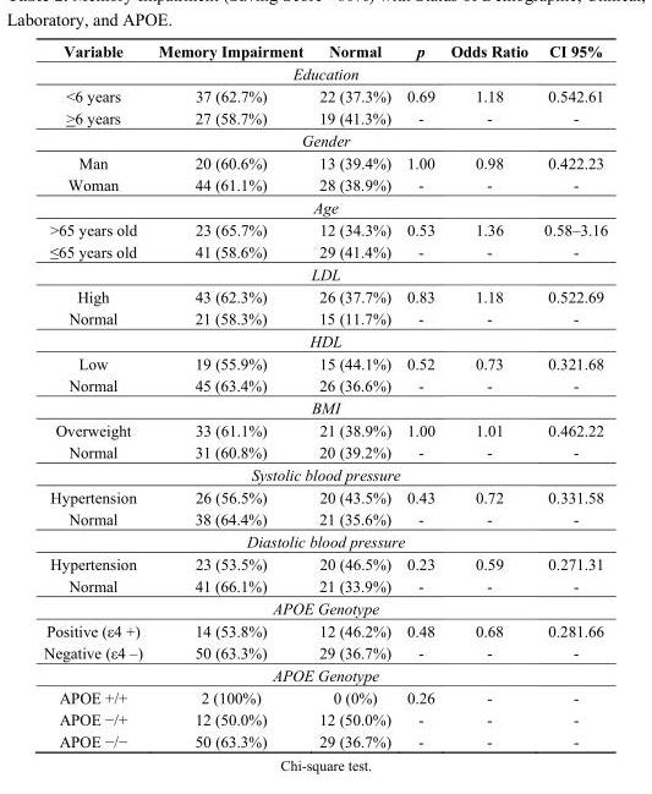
<table><thead><tr><td>Variable</td><td>Memory Impairment</td><td>Normal</td><td>p</td><td>Odds Ratio</td><td>CI 95%</td></tr></thead><tbody><tr><td colspan="6">Education</td></tr><tr><td>&lt;6 years</td><td>37 (62.7%)</td><td>22 (37.3%)</td><td>0.69</td><td>1.18</td><td>0.542.61</td></tr><tr><td>&gt;6 years</td><td>27 (58.7%)</td><td>19 (41.3%)</td><td>-</td><td>-</td><td>-</td></tr><tr><td colspan="6">Gender</td></tr><tr><td>Man</td><td>20 (60.6%)</td><td>13 (39.4%)</td><td>1.00</td><td>0.98</td><td>0.422.23</td></tr><tr><td>Woman</td><td>44 (61.1%)</td><td>28 (38.9%)</td><td>-</td><td>-</td><td>-</td></tr><tr><td colspan="6">Age</td></tr><tr><td>&gt;65 years old</td><td>23 (65.7%)</td><td>12 (34.3%)</td><td>0.53</td><td>1.36</td><td>0.58–3.16</td></tr><tr><td>≤65 years old</td><td>41 (58.6%)</td><td>29 (41.4%)</td><td>-</td><td>-</td><td>-</td></tr><tr><td colspan="6">LDL</td></tr><tr><td>High</td><td>43 (62.3%)</td><td>26 (37.7%)</td><td>0.83</td><td>1.18</td><td>0.522.69</td></tr><tr><td>Normal</td><td>21 (58.3%)</td><td>15 (11.7%)</td><td>-</td><td>-</td><td>-</td></tr><tr><td colspan="6">HDL</td></tr><tr><td>Low</td><td>19 (55.9%)</td><td>15 (44.1%)</td><td>0.52</td><td>0.73</td><td>0.321.68</td></tr><tr><td>Normal</td><td>45 (63.4%)</td><td>26 (36.6%)</td><td>-</td><td>-</td><td>-</td></tr><tr><td colspan="6">BMI</td></tr><tr><td>Overweight</td><td>33 (61.1%)</td><td>21 (38.9%)</td><td>1.00</td><td>1.01</td><td>0.462.22</td></tr><tr><td>Normal</td><td>31 (60.8%)</td><td>20 (39.2%)</td><td>-</td><td>-</td><td>-</td></tr><tr><td colspan="6">Systolic blood pressure</td></tr><tr><td>Hypertension</td><td>26 (56.5%)</td><td>20 (43.5%)</td><td>0.43</td><td>0.72</td><td>0.331.58</td></tr><tr><td>Normal</td><td>38 (64.4%)</td><td>21 (35.6%)</td><td>-</td><td>-</td><td>-</td></tr><tr><td colspan="6">Diastolic blood pressure</td></tr><tr><td>Hypertension</td><td>23 (53.5%)</td><td>20 (46.5%)</td><td>0.23</td><td>0.59</td><td>0.271.31</td></tr><tr><td>Normal</td><td>41 (66.1%)</td><td>21 (33.9%)</td><td>-</td><td>-</td><td>-</td></tr><tr><td colspan="6">APOE Genotype</td></tr><tr><td>Positive (ε4 +)</td><td>14 (53.8%)</td><td>12 (46.2%)</td><td>0.48</td><td>0.68</td><td>0.281.66</td></tr><tr><td>Negative (ε4 –)</td><td>50 (63.3%)</td><td>29 (36.7%)</td><td>-</td><td>-</td><td>-</td></tr><tr><td colspan="6">APOE Genotype</td></tr><tr><td>APOE +/+</td><td>2 (100%)</td><td>0 (0%)</td><td>0.26</td><td>-</td><td>-</td></tr><tr><td>APOE −/+</td><td>12 (50.0%)</td><td>12 (50.0%)</td><td>-</td><td>-</td><td>-</td></tr><tr><td>APOE −/−</td><td>50 (63.3%)</td><td>29 (36.7%)</td><td>-</td><td>-</td><td>-</td></tr></tbody></table>